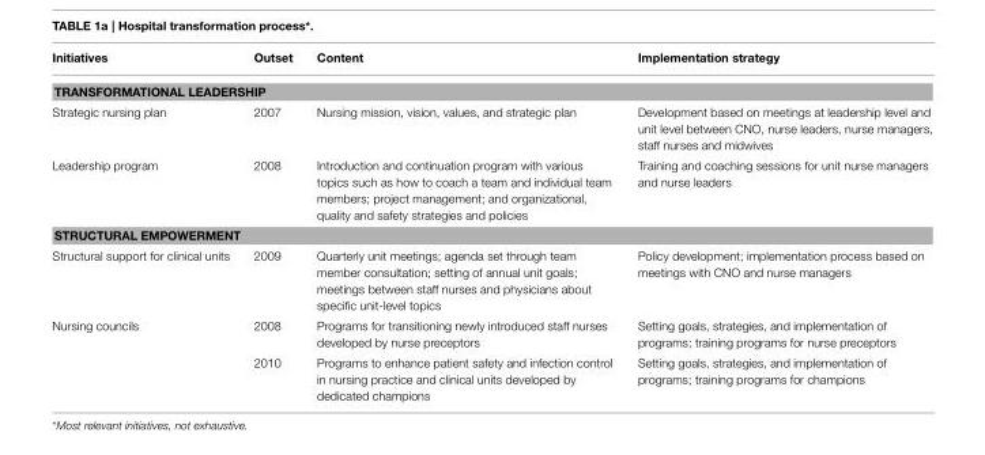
<table><thead><tr><td>Initiatives</td><td>Outset</td><td>Content</td><td>Implementation strategy</td></tr></thead><tbody><tr><td colspan="4">TRANSFORMATIONAL LEADERSHIP</td></tr><tr><td>Strategic nursing plan</td><td>2007</td><td>Nursing mission, vision, values, and strategic plan</td><td>Development based on meetings at leadership level and unit level between CNO, nurse leaders, nurse managers, staff nurses and midwives</td></tr><tr><td>Leadership program</td><td>2008</td><td>Introduction and continuation program with various topics such as how to coach a team and individual team members; project management; and organizational, quality and safety strategies and policies</td><td>Training and coaching sessions for unit nurse managers and nurse leaders</td></tr><tr><td colspan="4">STRUCTURAL EMPOWERMENT</td></tr><tr><td>Structural support for clinical units</td><td>2009</td><td>Quarterly unit meetings; agenda set through team member consultation; setting of annual unit goals; meetings between staff nurses and physicians about specific unit-level topics</td><td>Policy development; implementation process based on meetings with CNO and nurse managers</td></tr><tr><td rowspan="2">Nursing councils</td><td>2008</td><td>Programs for transitioning newly introduced staff nurses developed by nurse preceptors</td><td>Setting goals, strategies, and implementation of programs; training programs for nurse preceptors</td></tr><tr><td>2010</td><td>Programs to enhance patient safety and infection control in nursing practice and clinical units developed by dedicated champions</td><td>Setting goals, strategies, and implementation of programs; training programs for champions</td></tr></tbody></table>